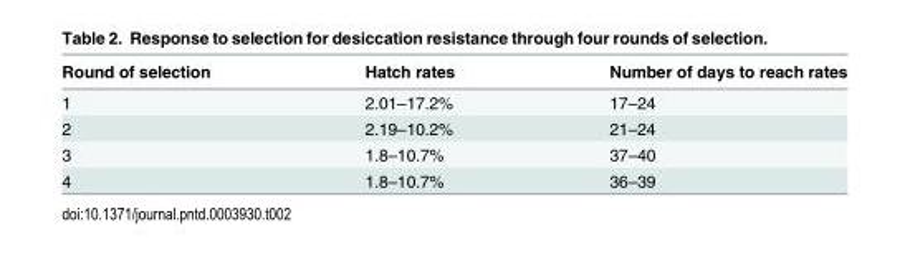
<table><thead><tr><td>Round of selection</td><td>Hatch rates</td><td>Number of days to reach rates</td></tr></thead><tbody><tr><td>1</td><td>2.01–17.2%</td><td>17–24</td></tr><tr><td>2</td><td>2.19–10.2%</td><td>21–24</td></tr><tr><td>3</td><td>1.8–10.7%</td><td>37–40</td></tr><tr><td>4</td><td>1.8–10.7%</td><td>36–39</td></tr></tbody></table>